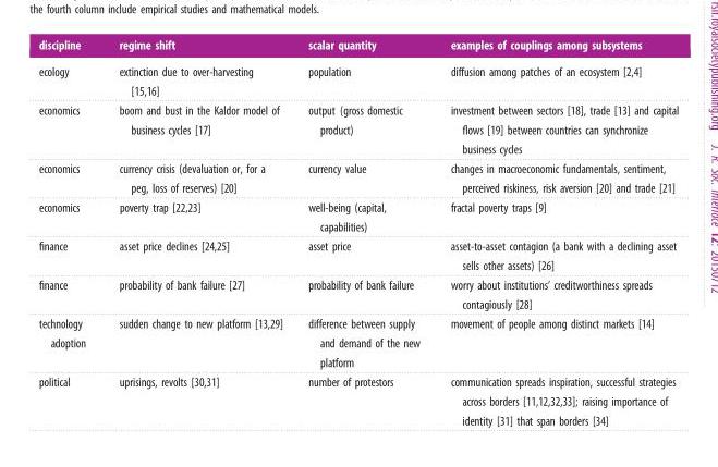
<table><thead><tr><td>discipline</td><td>regime shift</td><td>scalar quantity</td><td>examples of couplings among subsystems</td></tr></thead><tbody><tr><td>ecology</td><td>extinction due to over-harvesting [15,16]</td><td>population</td><td>diffusion among patches of an ecosystem [2,4]</td></tr><tr><td>economics</td><td>boom and bust in the Kaldor model of business cycles [17]</td><td>output (gross domestic product)</td><td>investment between sectors [18], trade [13] and capital flows [19] between countries can synchronize business cycles</td></tr><tr><td>economics</td><td>currency crisis (devaluation or, for a peg, loss of reserves) [20]</td><td>currency value</td><td>changes in macroeconomic fundamentals, sentiment, perceived riskiness, risk aversion [20] and trade [21]</td></tr><tr><td>economics</td><td>poverty trap [22,23]</td><td>well-being (capital, capabilities)</td><td>fractal poverty traps [9]</td></tr><tr><td>finance</td><td>asset price declines [24,25]</td><td>asset price</td><td>asset-to-asset contagion (a bank with a declining asset sells other assets) [26]</td></tr><tr><td>finance</td><td>probability of bank failure [27]</td><td>probability of bank failure</td><td>worry about institutions’ creditworthiness spreads contagiously [28]</td></tr><tr><td>technology adoption</td><td>sudden change to new platform [13,29]</td><td>difference between supply and demand of the new platform</td><td>movement of people among distinct markets [14]</td></tr><tr><td>political</td><td>uprisings, revolts [30,31]</td><td>number of protestors</td><td>communication spreads inspiration, successful strategies across borders [11,12,32,33]; raising importance of identity [31] that span borders [34]</td></tr></tbody></table>